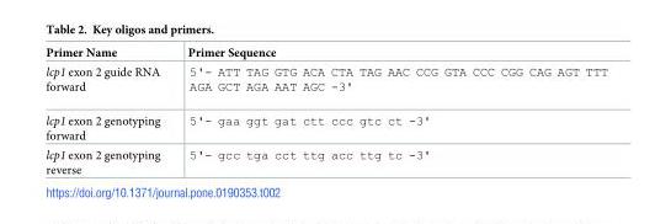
<table><thead><tr><td>Primer Name</td><td>Primer Sequence</td></tr></thead><tbody><tr><td>lcp1 exon 2 guide RNA forward</td><td>5&#x27;- ATT TAG GTG ACA CTA TAG AAC CCG GTA CCC CGG CAG AGT TTT AGA GCT AGA AAT AGC -3&#x27;</td></tr><tr><td>lcp1 exon 2 genotyping forward</td><td>5&#x27;- gaa ggt gat ctt ccc gtc ct -3&#x27;</td></tr><tr><td>lcp1 exon 2 genotyping reverse</td><td>5&#x27;- gcc tga cct ttg acc ttg tc -3&#x27;</td></tr></tbody></table>